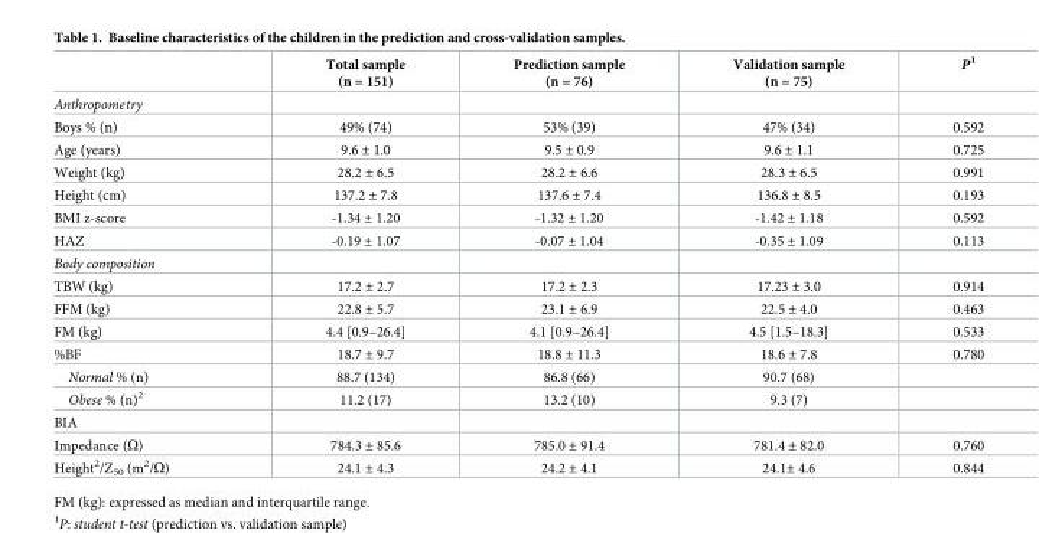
<table><thead><tr><td></td><td>Total sample (n = 151)</td><td>Prediction sample (n = 76)</td><td>Validation sample (n = 75)</td><td>P<sup>1</sup></td></tr></thead><tbody><tr><td colspan="5">Anthropometry</td></tr><tr><td>Boys % (n)</td><td>49% (74)</td><td>53% (39)</td><td>47% (34)</td><td>0.592</td></tr><tr><td>Age (years)</td><td>9.6 ± 1.0</td><td>9.5 ± 0.9</td><td>9.6 ± 1.1</td><td>0.725</td></tr><tr><td>Weight (kg)</td><td>28.2 ± 6.5</td><td>28.2 ± 6.6</td><td>28.3 ± 6.5</td><td>0.991</td></tr><tr><td>Height (cm)</td><td>137.2 ± 7.8</td><td>137.6 ± 7.4</td><td>136.8 ± 8.5</td><td>0.193</td></tr><tr><td>BMI z-score</td><td>-1.34 ± 1.20</td><td>-1.32 ± 1.20</td><td>-1.42 ± 1.18</td><td>0.592</td></tr><tr><td>HAZ</td><td>-0.19 ± 1.07</td><td>-0.07 ± 1.04</td><td>-0.35 ± 1.09</td><td>0.113</td></tr><tr><td colspan="5">Body composition</td></tr><tr><td>TBW (kg)</td><td>17.2 ± 2.7</td><td>17.2 ± 2.3</td><td>17.23 ± 3.0</td><td>0.914</td></tr><tr><td>FFM (kg)</td><td>22.8 ± 5.7</td><td>23.1 ± 6.9</td><td>22.5 ± 4.0</td><td>0.463</td></tr><tr><td>FM (kg)</td><td>4.4 [0.9–26.4]</td><td>4.1 [0.9–26.4]</td><td>4.5 [1.5–18.3]</td><td>0.533</td></tr><tr><td>%BF</td><td>18.7 ± 9.7</td><td>18.8 ± 11.3</td><td>18.6 ± 7.8</td><td>0.780</td></tr><tr><td>Normal % (n)</td><td>88.7 (134)</td><td>86.8 (66)</td><td>90.7 (68)</td><td></td></tr><tr><td>Obese % (n)<sup>2</sup></td><td>11.2 (17)</td><td>13.2 (10)</td><td>9.3 (7)</td><td></td></tr><tr><td colspan="5">BIA</td></tr><tr><td>Impedance (Ω)</td><td>784.3 ± 85.6</td><td>785.0 ± 91.4</td><td>781.4 ± 82.0</td><td>0.760</td></tr><tr><td>Height<sup>2</sup>/Z<sub>50</sub> (m<sup>2</sup>/Ω)</td><td>24.1 ± 4.3</td><td>24.2 ± 4.1</td><td>24.1± 4.6</td><td>0.844</td></tr></tbody></table>